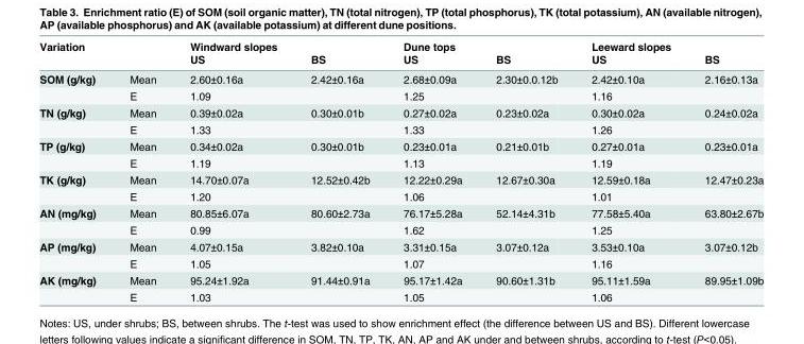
<table><thead><tr><td rowspan="2">Variation</td><td rowspan="2"></td><td rowspan="2">Windward slopes US</td><td rowspan="2">BS</td><td rowspan="2">Dune tops US</td><td rowspan="2">BS</td><td rowspan="2">Leeward slopes US</td><td rowspan="2">BS</td></tr><tr></tr></thead><tbody><tr><td rowspan="2">SOM (g/kg)</td><td>Mean</td><td>2.60±0.16a</td><td>2.42±0.16a</td><td>2.68±0.09a</td><td>2.30±0.0.12b</td><td>2.42±0.10a</td><td>2.16±0.13a</td></tr><tr><td>E</td><td>1.09</td><td></td><td>1.25</td><td></td><td>1.16</td><td></td></tr><tr><td rowspan="2">TN (g/kg)</td><td>Mean</td><td>0.39±0.02a</td><td>0.30±0.01b</td><td>0.27±0.02a</td><td>0.23±0.02a</td><td>0.30±0.02a</td><td>0.24±0.02a</td></tr><tr><td>E</td><td>1.33</td><td></td><td>1.33</td><td></td><td>1.26</td><td></td></tr><tr><td rowspan="2">TP (g/kg)</td><td>Mean</td><td>0.34±0.02a</td><td>0.30±0.01b</td><td>0.23±0.01a</td><td>0.21±0.01b</td><td>0.27±0.01a</td><td>0.23±0.01a</td></tr><tr><td>E</td><td>1.19</td><td></td><td>1.13</td><td></td><td>1.19</td><td></td></tr><tr><td rowspan="2">TK (g/kg)</td><td>Mean</td><td>14.70±0.07a</td><td>12.52±0.42b</td><td>12.22±0.29a</td><td>12.67±0.30a</td><td>12.59±0.18a</td><td>12.47±0.23a</td></tr><tr><td>E</td><td>1.20</td><td></td><td>1.06</td><td></td><td>1.01</td><td></td></tr><tr><td rowspan="2">AN (mg/kg)</td><td>Mean</td><td>80.85±6.07a</td><td>80.60±2.73a</td><td>76.17±5.28a</td><td>52.14±4.31b</td><td>77.58±5.40a</td><td>63.80±2.67b</td></tr><tr><td>E</td><td>0.99</td><td></td><td>1.62</td><td></td><td>1.25</td><td></td></tr><tr><td rowspan="2">AP (mg/kg)</td><td>Mean</td><td>4.07±0.15a</td><td>3.82±0.10a</td><td>3.31±0.15a</td><td>3.07±0.12a</td><td>3.53±0.10a</td><td>3.07±0.12b</td></tr><tr><td>E</td><td>1.05</td><td></td><td>1.07</td><td></td><td>1.16</td><td></td></tr><tr><td rowspan="2">AK (mg/kg)</td><td>Mean</td><td>95.24±1.92a</td><td>91.44±0.91a</td><td>95.17±1.42a</td><td>90.60±1.31b</td><td>95.11±1.59a</td><td>89.95±1.09b</td></tr><tr><td>E</td><td>1.03</td><td></td><td>1.05</td><td></td><td>1.06</td><td></td></tr></tbody></table>